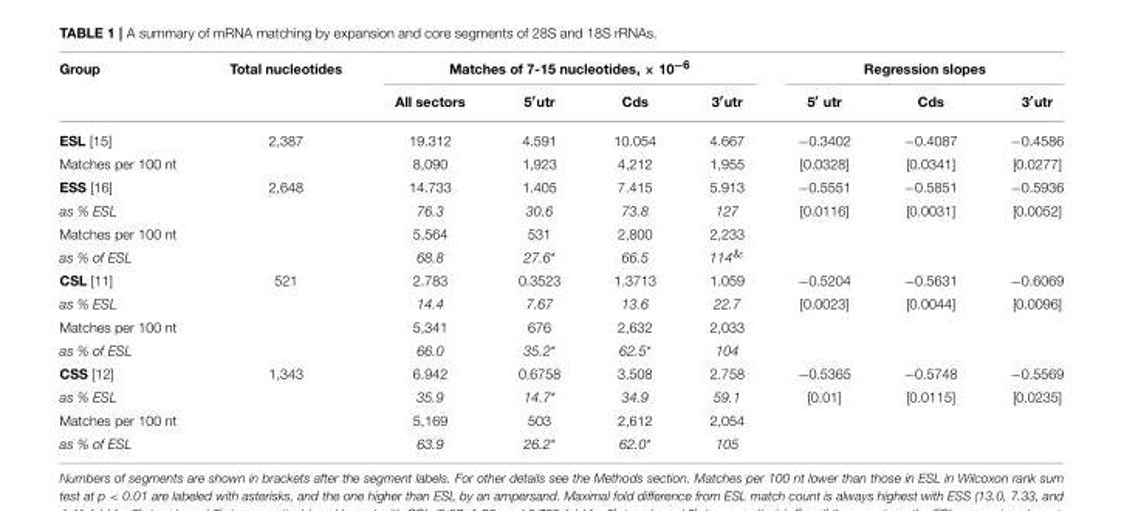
<table><thead><tr><td rowspan="2">Group</td><td rowspan="2">Total nucleotides</td><td colspan="4">Matches of 7-15 nucleotides, × 10<sup>−6</sup></td><td colspan="3">Regression slopes</td></tr><tr><td>All sectors</td><td>5′utr</td><td>Cds</td><td>3′utr</td><td>5′ utr</td><td>Cds</td><td>3′utr</td></tr></thead><tbody><tr><td>ESL [15]</td><td>2,387</td><td>19.312</td><td>4.591</td><td>10.054</td><td>4.667</td><td>−0.3402</td><td>−0.4087</td><td>−0.4586</td></tr><tr><td>Matches per 100 nt</td><td></td><td>8,090</td><td>1,923</td><td>4,212</td><td>1,955</td><td>[0.0328]</td><td>[0.0341]</td><td>[0.0277]</td></tr><tr><td>ESS [16]</td><td>2,648</td><td>14.733</td><td>1.405</td><td>7.415</td><td>5.913</td><td>−0.5551</td><td>−0.5851</td><td>−0.5936</td></tr><tr><td>as % ESL</td><td></td><td>76.3</td><td>30.6</td><td>73.8</td><td>127</td><td>[0.0116]</td><td>[0.0031]</td><td>[0.0052]</td></tr><tr><td>Matches per 100 nt</td><td></td><td>5,564</td><td>531</td><td>2,800</td><td>2,233</td><td></td><td></td><td></td></tr><tr><td>as % of ESL</td><td></td><td>68.8</td><td>27.6*</td><td>66.5</td><td>114<sup>&amp;</sup></td><td></td><td></td><td></td></tr><tr><td>CSL [11]</td><td>521</td><td>2.783</td><td>0.3523</td><td>1.3713</td><td>1.059</td><td>−0.5204</td><td>−0.5631</td><td>−0.6069</td></tr><tr><td>as % ESL</td><td></td><td>14.4</td><td>7.67</td><td>13.6</td><td>22.7</td><td>[0.0023]</td><td>[0.0044]</td><td>[0.0096]</td></tr><tr><td>Matches per 100 nt</td><td></td><td>5,341</td><td>676</td><td>2,632</td><td>2,033</td><td></td><td></td><td></td></tr><tr><td>as % of ESL</td><td></td><td>66.0</td><td>35.2*</td><td>62.5*</td><td>104</td><td></td><td></td><td></td></tr><tr><td>CSS [12]</td><td>1,343</td><td>6.942</td><td>0.6758</td><td>3.508</td><td>2.758</td><td>−0.5365</td><td>−0.5748</td><td>−0.5569</td></tr><tr><td>as % ESL</td><td></td><td>35.9</td><td>14.7*</td><td>34.9</td><td>59.1</td><td>[0.01]</td><td>[0.0115]</td><td>[0.0235]</td></tr><tr><td>Matches per 100 nt</td><td></td><td>5,169</td><td>503</td><td>2,612</td><td>2,054</td><td></td><td></td><td></td></tr><tr><td>as % of ESL</td><td></td><td>63.9</td><td>26.2*</td><td>62.0*</td><td>105</td><td></td><td></td><td></td></tr></tbody></table>